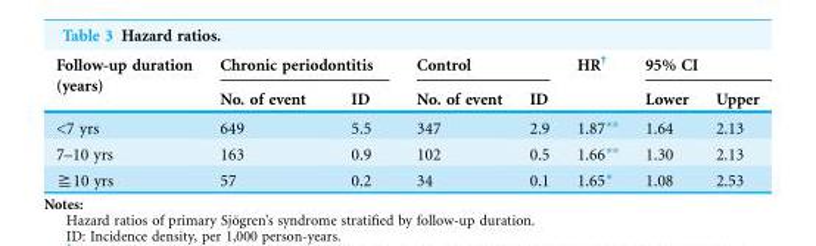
<table><thead><tr><td rowspan="2">Follow-up duration (years)</td><td colspan="2">Chronic periodontitis</td><td colspan="2">Control</td><td rowspan="2">HR<sup>†</sup></td><td colspan="2">95% CI</td></tr><tr><td>No. of event</td><td>ID</td><td>No. of event</td><td>ID</td><td>Lower</td><td>Upper</td></tr></thead><tbody><tr><td>&lt;7 yrs</td><td>649</td><td>5.5</td><td>347</td><td>2.9</td><td>1.87**</td><td>1.64</td><td>2.13</td></tr><tr><td>7–10 yrs</td><td>163</td><td>0.9</td><td>102</td><td>0.5</td><td>1.66**</td><td>1.30</td><td>2.13</td></tr><tr><td>≧10 yrs</td><td>57</td><td>0.2</td><td>34</td><td>0.1</td><td>1.65*</td><td>1.08</td><td>2.53</td></tr></tbody></table>